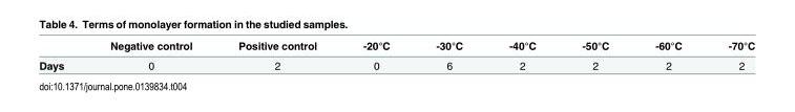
<table><thead><tr><td></td><td>Negative control</td><td>Positive control</td><td>-20°C</td><td>-30°C</td><td>-40°C</td><td>-50°C</td><td>-60°C</td><td>-70°C</td></tr></thead><tbody><tr><td>Days</td><td>0</td><td>2</td><td>0</td><td>6</td><td>2</td><td>2</td><td>2</td><td>2</td></tr></tbody></table>